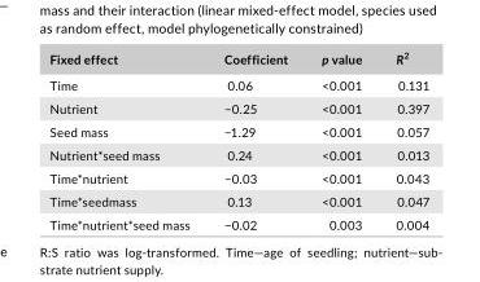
<table><thead><tr><td>Fixed effect</td><td>Coefficient</td><td>p value</td><td>R<sup>2</sup></td></tr></thead><tbody><tr><td>Time</td><td>0.06</td><td>&lt;0.001</td><td>0.131</td></tr><tr><td>Nutrient</td><td>−0.25</td><td>&lt;0.001</td><td>0.397</td></tr><tr><td>Seed mass</td><td>−1.29</td><td>&lt;0.001</td><td>0.057</td></tr><tr><td>Nutrient*seed mass</td><td>0.24</td><td>&lt;0.001</td><td>0.013</td></tr><tr><td>Time*nutrient</td><td>−0.03</td><td>&lt;0.001</td><td>0.043</td></tr><tr><td>Time*seedmass</td><td>0.13</td><td>&lt;0.001</td><td>0.047</td></tr><tr><td>Time*nutrient*seed mass</td><td>−0.02</td><td>0.003</td><td>0.004</td></tr></tbody></table>